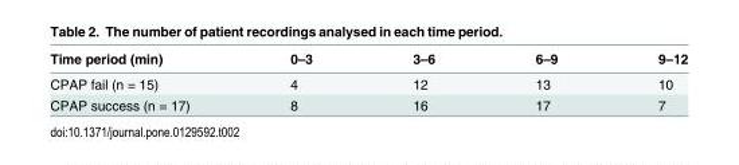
<table><thead><tr><td>Time period (min)</td><td>0–3</td><td>3–6</td><td>6–9</td><td>9–12</td></tr></thead><tbody><tr><td>CPAP fail (n = 15)</td><td>4</td><td>12</td><td>13</td><td>10</td></tr><tr><td>CPAP success (n = 17)</td><td>8</td><td>16</td><td>17</td><td>7</td></tr></tbody></table>